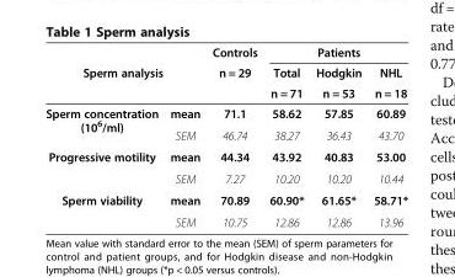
<table><thead><tr><td></td><td></td><td rowspan="3">Controls n = 29</td><td colspan="3">Patients</td></tr><tr><td colspan="2">Sperm analysis</td><td rowspan="2">Total n = 71</td><td rowspan="2">Hodgkin n = 53</td><td rowspan="2">NHL n = 18</td></tr><tr><td></td><td></td></tr></thead><tbody><tr><td rowspan="2">Sperm concentration (10<sup>6</sup>/ml)</td><td>mean</td><td>71.1</td><td>58.62</td><td>57.85</td><td>60.89</td></tr><tr><td>SEM</td><td>46.74</td><td>38.27</td><td>36.43</td><td>43.70</td></tr><tr><td rowspan="2">Progressive motility</td><td>mean</td><td>44.34</td><td>43.92</td><td>40.83</td><td>53.00</td></tr><tr><td>SEM</td><td>7.27</td><td>10.20</td><td>10.20</td><td>10.44</td></tr><tr><td rowspan="2">Sperm viability</td><td>mean</td><td>70.89</td><td>60.90*</td><td>61.65*</td><td>58.71*</td></tr><tr><td>SEM</td><td>10.75</td><td>12.86</td><td>12.86</td><td>13.96</td></tr></tbody></table>